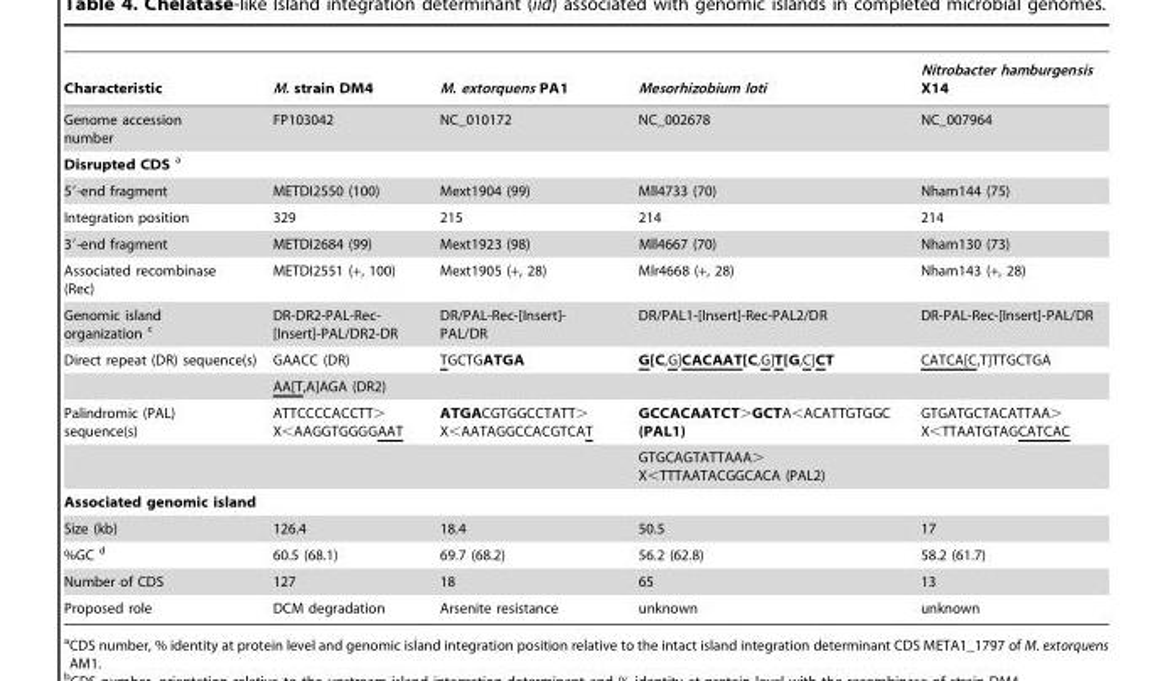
<table><thead><tr><td>Characteristic</td><td>M. strain DM4</td><td>M. extorquens PA1</td><td>Mesorhizobium loti</td><td>Nitrobacter hamburgensis X14</td></tr></thead><tbody><tr><td>Genome accession number</td><td>FP103042</td><td>NC_010172</td><td>NC_002678</td><td>NC_007964</td></tr><tr><td colspan="5">Disrupted CDS a</td></tr><tr><td>5′-end fragment</td><td>METDI2550 (100)</td><td>Mext1904 (99)</td><td>Mll4733 (70)</td><td>Nham144 (75)</td></tr><tr><td>Integration position</td><td>329</td><td>215</td><td>214</td><td>214</td></tr><tr><td>3′-end fragment</td><td>METDI2684 (99)</td><td>Mext1923 (98)</td><td>Mll4667 (70)</td><td>Nham130 (73)</td></tr><tr><td>Associated recombinase (Rec)</td><td>METDI2551 (+, 100)</td><td>Mext1905 (+, 28)</td><td>Mlr4668 (+, 28)</td><td>Nham143 (+, 28)</td></tr><tr><td>Genomic island organization c</td><td>DR-DR2-PAL-Rec- [Insert]-PAL/DR2-DR</td><td>DR/PAL-Rec-[Insert]- PAL/DR</td><td>DR/PAL1-[Insert]-Rec-PAL2/DR</td><td>DR-PAL-Rec-[Insert]-PAL/DR</td></tr><tr><td rowspan="2">Direct repeat (DR) sequence(s)</td><td>GAACC (DR)</td><td>TGCTGATGA</td><td>G[C,G]CACAAT[C,G]T[G,C]CT</td><td>CATCA[C,T]TTGCTGA</td></tr><tr><td>AA[T,A]AGA (DR2)</td><td></td><td></td><td></td></tr><tr><td rowspan="2">Palindromic (PAL) sequence(s)</td><td>ATTCCCCACCTT&gt; X&lt;AAGGTGGGGAAT</td><td>ATGACGTGGCCTATT&gt; X&lt;AATAGGCCACGTCAT</td><td>GCCACAATCT&gt;GCTA&lt;ACATTGTGGC (PAL1)</td><td>GTGATGCTACATTAA&gt; X&lt;TTAATGTAGCATCAC</td></tr><tr><td></td><td></td><td>GTGCAGTATTAAA&gt; X&lt;TTTAATACGGCACA (PAL2)</td><td></td></tr><tr><td colspan="5">Associated genomic island</td></tr><tr><td>Size (kb)</td><td>126.4</td><td>18.4</td><td>50.5</td><td>17</td></tr><tr><td>%GC d</td><td>60.5 (68.1)</td><td>69.7 (68.2)</td><td>56.2 (62.8)</td><td>58.2 (61.7)</td></tr><tr><td>Number of CDS</td><td>127</td><td>18</td><td>65</td><td>13</td></tr><tr><td>Proposed role</td><td>DCM degradation</td><td>Arsenite resistance</td><td>unknown</td><td>unknown</td></tr></tbody></table>